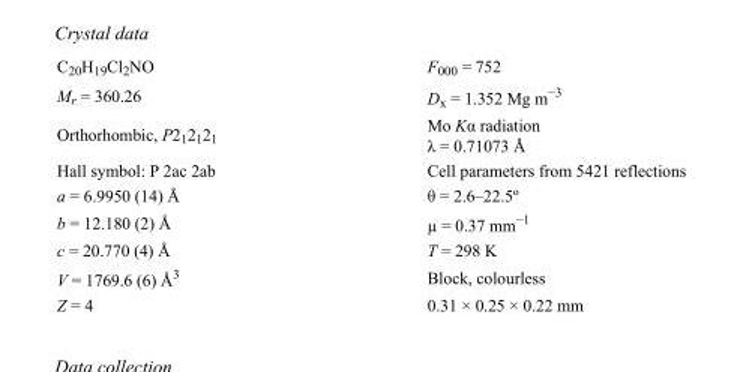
<table><tbody><tr><td>C<sub>20</sub>H<sub>19</sub>Cl<sub>2</sub>NO</td><td>F000 = 752</td></tr><tr><td>M<sub>r</sub> = 360.26</td><td>D<sub>x</sub> = 1.352 Mg m<sup>−3</sup></td></tr><tr><td>Orthorhombic, P2<sub>1</sub>2<sub>1</sub>2<sub>1</sub></td><td>Mo Kα radiation λ = 0.71073 Å</td></tr><tr><td>Hall symbol: P 2ac 2ab</td><td>Cell parameters from 5421 reflections</td></tr><tr><td>a = 6.9950 (14) Å</td><td>θ = 2.6–22.5º</td></tr><tr><td>b = 12.180 (2) Å</td><td>µ = 0.37 mm<sup>−1</sup></td></tr><tr><td>c = 20.770 (4) Å</td><td>T = 298 K</td></tr><tr><td>V = 1769.6 (6) Å<sup>3</sup></td><td>Block, colourless</td></tr><tr><td>Z = 4</td><td>0.31 × 0.25 × 0.22 mm</td></tr></tbody></table>